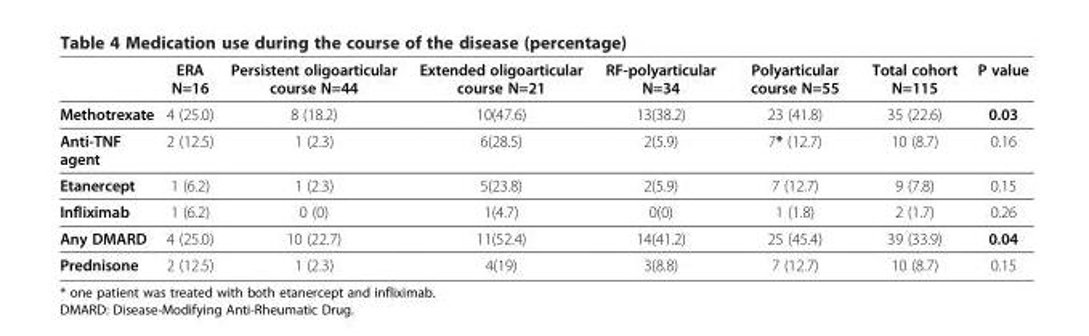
<table><thead><tr><td></td><td>ERA N=16</td><td>Persistent oligoarticular course N=44</td><td>Extended oligoarticular course N=21</td><td>RF-polyarticular N=34</td><td>Polyarticular course N=55</td><td>Total cohort N=115</td><td>P value</td></tr></thead><tbody><tr><td>Methotrexate</td><td>4 (25.0)</td><td>8 (18.2)</td><td>10(47.6)</td><td>13(38.2)</td><td>23 (41.8)</td><td>35 (22.6)</td><td>0.03</td></tr><tr><td>Anti-TNF agent</td><td>2 (12.5)</td><td>1 (2.3)</td><td>6(28.5)</td><td>2(5.9)</td><td>7* (12.7)</td><td>10 (8.7)</td><td>0.16</td></tr><tr><td>Etanercept</td><td>1 (6.2)</td><td>1 (2.3)</td><td>5(23.8)</td><td>2(5.9)</td><td>7 (12.7)</td><td>9 (7.8)</td><td>0.15</td></tr><tr><td>Infliximab</td><td>1 (6.2)</td><td>0 (0)</td><td>1(4.7)</td><td>0(0)</td><td>1 (1.8)</td><td>2 (1.7)</td><td>0.26</td></tr><tr><td>Any DMARD</td><td>4 (25.0)</td><td>10 (22.7)</td><td>11(52.4)</td><td>14(41.2)</td><td>25 (45.4)</td><td>39 (33.9)</td><td>0.04</td></tr><tr><td>Prednisone</td><td>2 (12.5)</td><td>1 (2.3)</td><td>4(19)</td><td>3(8.8)</td><td>7 (12.7)</td><td>10 (8.7)</td><td>0.15</td></tr></tbody></table>